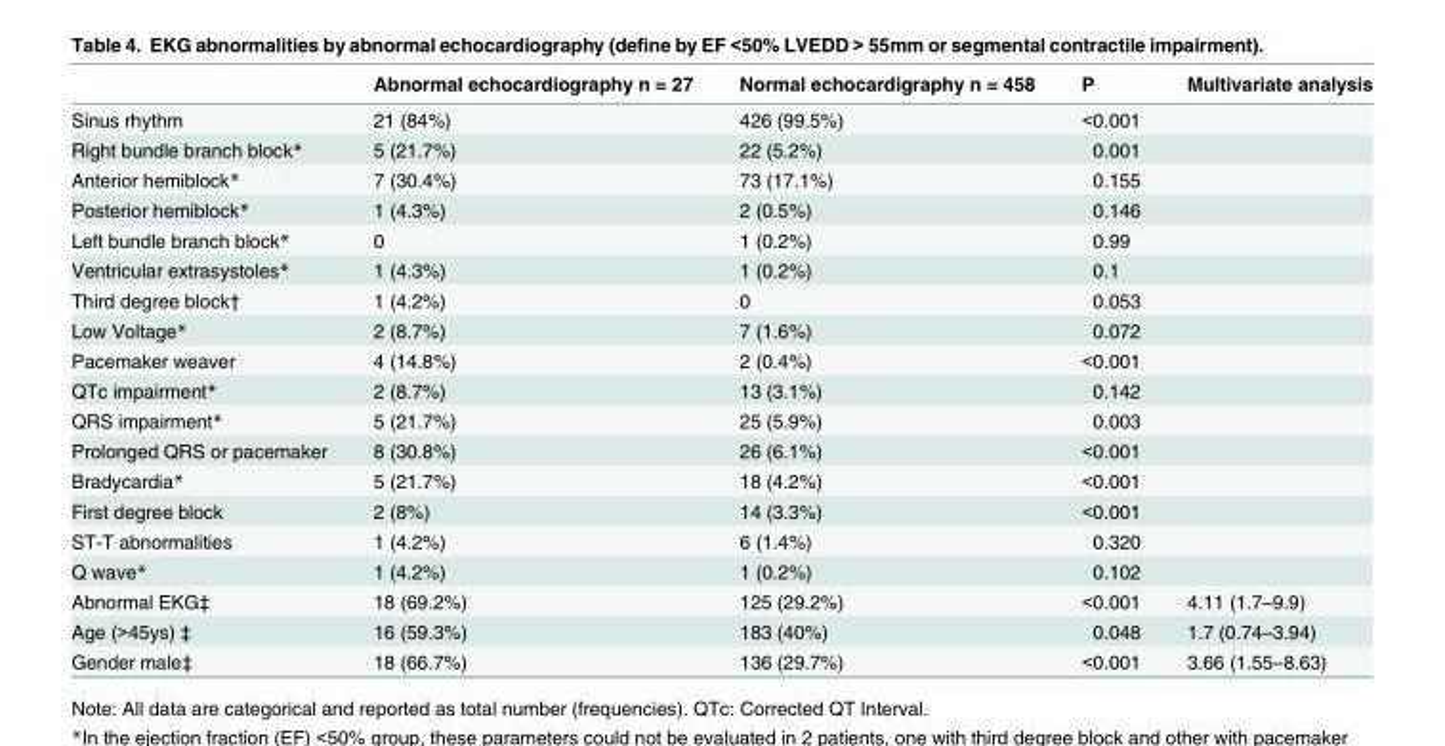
<table><thead><tr><td></td><td>Abnormal echocardiography n = 27</td><td>Normal echocardigraphy n = 458</td><td>P</td><td>Multivariate analysis</td></tr></thead><tbody><tr><td>Sinus rhythm</td><td>21 (84%)</td><td>426 (99.5%)</td><td>&lt;0.001</td><td></td></tr><tr><td>Right bundle branch block*</td><td>5 (21.7%)</td><td>22 (5.2%)</td><td>0.001</td><td></td></tr><tr><td>Anterior hemiblock*</td><td>7 (30.4%)</td><td>73 (17.1%)</td><td>0.155</td><td></td></tr><tr><td>Posterior hemiblock*</td><td>1 (4.3%)</td><td>2 (0.5%)</td><td>0.146</td><td></td></tr><tr><td>Left bundle branch block*</td><td>0</td><td>1 (0.2%)</td><td>0.99</td><td></td></tr><tr><td>Ventricular extrasystoles*</td><td>1 (4.3%)</td><td>1 (0.2%)</td><td>0.1</td><td></td></tr><tr><td>Third degree block†</td><td>1 (4.2%)</td><td>0</td><td>0.053</td><td></td></tr><tr><td>Low Voltage*</td><td>2 (8.7%)</td><td>7 (1.6%)</td><td>0.072</td><td></td></tr><tr><td>Pacemaker weaver</td><td>4 (14.8%)</td><td>2 (0.4%)</td><td>&lt;0.001</td><td></td></tr><tr><td>QTc impairment*</td><td>2 (8.7%)</td><td>13 (3.1%)</td><td>0.142</td><td></td></tr><tr><td>QRS impairment*</td><td>5 (21.7%)</td><td>25 (5.9%)</td><td>0.003</td><td></td></tr><tr><td>Prolonged QRS or pacemaker</td><td>8 (30.8%)</td><td>26 (6.1%)</td><td>&lt;0.001</td><td></td></tr><tr><td>Bradycardia*</td><td>5 (21.7%)</td><td>18 (4.2%)</td><td>&lt;0.001</td><td></td></tr><tr><td>First degree block</td><td>2 (8%)</td><td>14 (3.3%)</td><td>&lt;0.001</td><td></td></tr><tr><td>ST-T abnormalities</td><td>1 (4.2%)</td><td>6 (1.4%)</td><td>0.320</td><td></td></tr><tr><td>Q wave*</td><td>1 (4.2%)</td><td>1 (0.2%)</td><td>0.102</td><td></td></tr><tr><td>Abnormal EKG‡</td><td>18 (69.2%)</td><td>125 (29.2%)</td><td>&lt;0.001</td><td>4.11 (1.7–9.9)</td></tr><tr><td>Age (&gt;45ys) ‡</td><td>16 (59.3%)</td><td>183 (40%)</td><td>0.048</td><td>1.7 (0.74–3.94)</td></tr><tr><td>Gender male‡</td><td>18 (66.7%)</td><td>136 (29.7%)</td><td>&lt;0.001</td><td>3.66 (1.55–8.63)</td></tr></tbody></table>